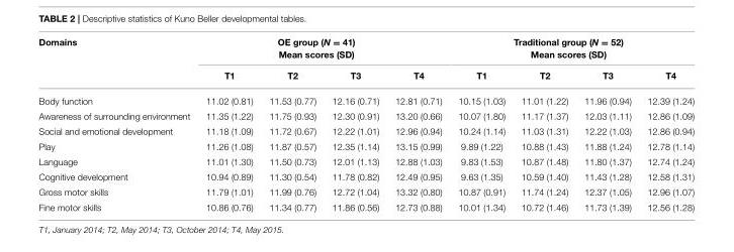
<table><thead><tr><td rowspan="2">Domains</td><td colspan="4">OE group (N = 41) Mean scores (SD)</td><td colspan="4">Traditional group (N = 52) Mean scores (SD)</td></tr><tr><td>T1</td><td>T2</td><td>T3</td><td>T4</td><td>T1</td><td>T2</td><td>T3</td><td>T4</td></tr></thead><tbody><tr><td>Body function</td><td>11.02 (0.81)</td><td>11.53 (0.77)</td><td>12.16 (0.71)</td><td>12.81 (0.71)</td><td>10.15 (1.03)</td><td>11.01 (1.22)</td><td>11.96 (0.94)</td><td>12.39 (1.24)</td></tr><tr><td>Awareness of surrounding environment</td><td>11.35 (1.22)</td><td>11.75 (0.93)</td><td>12.30 (0.91)</td><td>13.20 (0.66)</td><td>10.07 (1.80)</td><td>11.17 (1.37)</td><td>12.03 (1.11)</td><td>12.86 (1.09)</td></tr><tr><td>Social and emotional development</td><td>11.18 (1.09)</td><td>11.72 (0.67)</td><td>12.22 (1.01)</td><td>12.96 (0.94)</td><td>10.24 (1.14)</td><td>11.03 (1.31)</td><td>12.22 (1.03)</td><td>12.86 (0.94)</td></tr><tr><td>Play</td><td>11.26 (1.08)</td><td>11.87 (0.57)</td><td>12.35 (1.14)</td><td>13.15 (0.99)</td><td>9.89 (1.22)</td><td>10.88 (1.43)</td><td>11.88 (1.24)</td><td>12.78 (1.14)</td></tr><tr><td>Language</td><td>11.01 (1.30)</td><td>11.50 (0.73)</td><td>12.01 (1.13)</td><td>12.88 (1.03)</td><td>9.83 (1.53)</td><td>10.87 (1.48)</td><td>11.80 (1.37)</td><td>12.74 (1.24)</td></tr><tr><td>Cognitive development</td><td>10.94 (0.89)</td><td>11.30 (0.54)</td><td>11.78 (0.82)</td><td>12.49 (0.95)</td><td>9.63 (1.35)</td><td>10.59 (1.40)</td><td>11.43 (1.28)</td><td>12.58 (1.31)</td></tr><tr><td>Gross motor skills</td><td>11.79 (1.01)</td><td>11.99 (0.76)</td><td>12.72 (1.04)</td><td>13.32 (0.80)</td><td>10.87 (0.91)</td><td>11.74 (1.24)</td><td>12.37 (1.05)</td><td>12.96 (1.07)</td></tr><tr><td>Fine motor skills</td><td>10.86 (0.76)</td><td>11.34 (0.77)</td><td>11.86 (0.56)</td><td>12.73 (0.88)</td><td>10.01 (1.34)</td><td>10.72 (1.46)</td><td>11.73 (1.39)</td><td>12.56 (1.28)</td></tr></tbody></table>